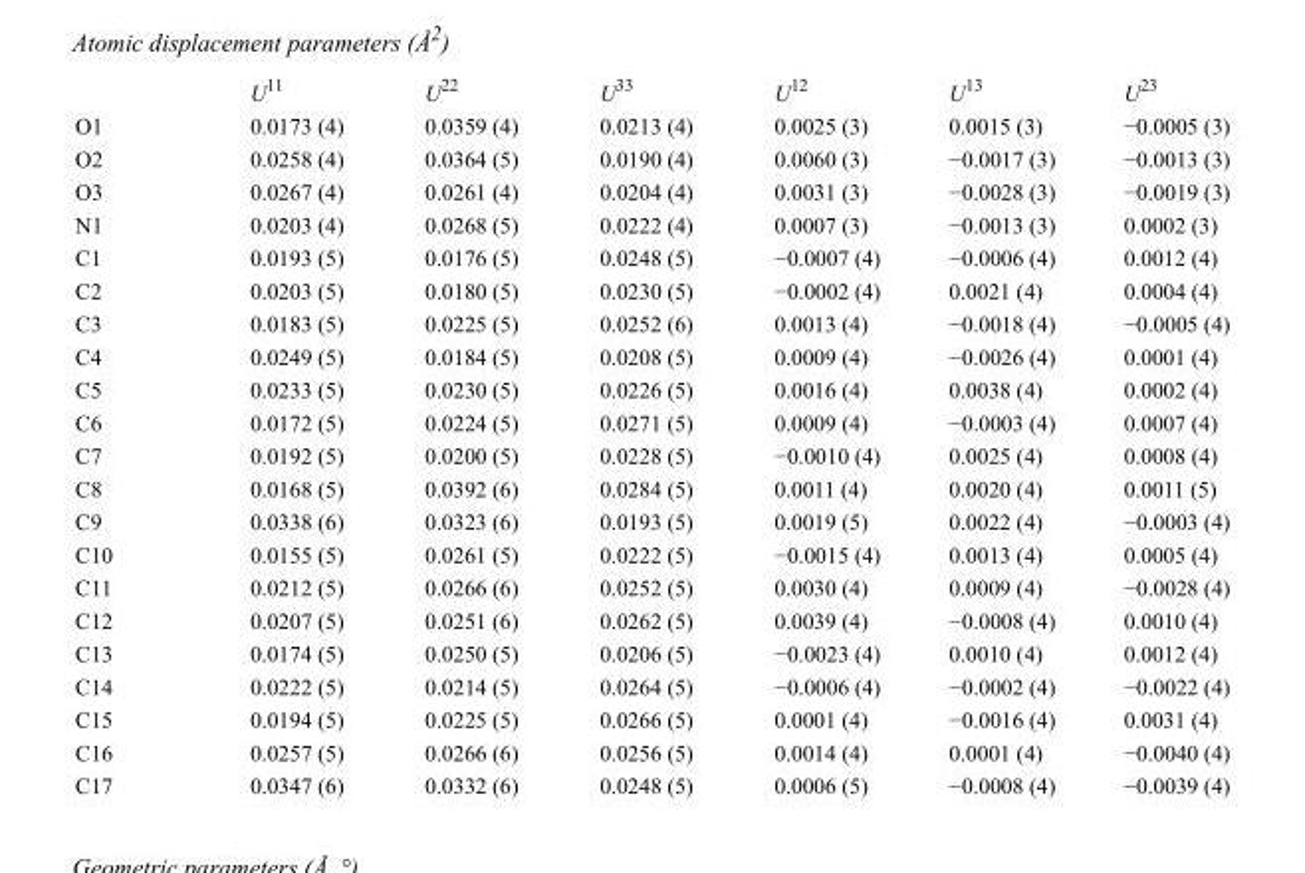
<table><thead><tr><td></td><td>U<sup>11</sup></td><td>U<sup>22</sup></td><td>U<sup>33</sup></td><td>U<sup>12</sup></td><td>U<sup>13</sup></td><td>U<sup>23</sup></td></tr></thead><tbody><tr><td>O1</td><td>0.0173 (4)</td><td>0.0359 (4)</td><td>0.0213 (4)</td><td>0.0025 (3)</td><td>0.0015 (3)</td><td>−0.0005 (3)</td></tr><tr><td>O2</td><td>0.0258 (4)</td><td>0.0364 (5)</td><td>0.0190 (4)</td><td>0.0060 (3)</td><td>−0.0017 (3)</td><td>−0.0013 (3)</td></tr><tr><td>O3</td><td>0.0267 (4)</td><td>0.0261 (4)</td><td>0.0204 (4)</td><td>0.0031 (3)</td><td>−0.0028 (3)</td><td>−0.0019 (3)</td></tr><tr><td>N1</td><td>0.0203 (4)</td><td>0.0268 (5)</td><td>0.0222 (4)</td><td>0.0007 (3)</td><td>−0.0013 (3)</td><td>0.0002 (3)</td></tr><tr><td>C1</td><td>0.0193 (5)</td><td>0.0176 (5)</td><td>0.0248 (5)</td><td>−0.0007 (4)</td><td>−0.0006 (4)</td><td>0.0012 (4)</td></tr><tr><td>C2</td><td>0.0203 (5)</td><td>0.0180 (5)</td><td>0.0230 (5)</td><td>−0.0002 (4)</td><td>0.0021 (4)</td><td>0.0004 (4)</td></tr><tr><td>C3</td><td>0.0183 (5)</td><td>0.0225 (5)</td><td>0.0252 (6)</td><td>0.0013 (4)</td><td>−0.0018 (4)</td><td>−0.0005 (4)</td></tr><tr><td>C4</td><td>0.0249 (5)</td><td>0.0184 (5)</td><td>0.0208 (5)</td><td>0.0009 (4)</td><td>−0.0026 (4)</td><td>0.0001 (4)</td></tr><tr><td>C5</td><td>0.0233 (5)</td><td>0.0230 (5)</td><td>0.0226 (5)</td><td>0.0016 (4)</td><td>0.0038 (4)</td><td>0.0002 (4)</td></tr><tr><td>C6</td><td>0.0172 (5)</td><td>0.0224 (5)</td><td>0.0271 (5)</td><td>0.0009 (4)</td><td>−0.0003 (4)</td><td>0.0007 (4)</td></tr><tr><td>C7</td><td>0.0192 (5)</td><td>0.0200 (5)</td><td>0.0228 (5)</td><td>−0.0010 (4)</td><td>0.0025 (4)</td><td>0.0008 (4)</td></tr><tr><td>C8</td><td>0.0168 (5)</td><td>0.0392 (6)</td><td>0.0284 (5)</td><td>0.0011 (4)</td><td>0.0020 (4)</td><td>0.0011 (5)</td></tr><tr><td>C9</td><td>0.0338 (6)</td><td>0.0323 (6)</td><td>0.0193 (5)</td><td>0.0019 (5)</td><td>0.0022 (4)</td><td>−0.0003 (4)</td></tr><tr><td>C10</td><td>0.0155 (5)</td><td>0.0261 (5)</td><td>0.0222 (5)</td><td>−0.0015 (4)</td><td>0.0013 (4)</td><td>0.0005 (4)</td></tr><tr><td>C11</td><td>0.0212 (5)</td><td>0.0266 (6)</td><td>0.0252 (5)</td><td>0.0030 (4)</td><td>0.0009 (4)</td><td>−0.0028 (4)</td></tr><tr><td>C12</td><td>0.0207 (5)</td><td>0.0251 (6)</td><td>0.0262 (5)</td><td>0.0039 (4)</td><td>−0.0008 (4)</td><td>0.0010 (4)</td></tr><tr><td>C13</td><td>0.0174 (5)</td><td>0.0250 (5)</td><td>0.0206 (5)</td><td>−0.0023 (4)</td><td>0.0010 (4)</td><td>0.0012 (4)</td></tr><tr><td>C14</td><td>0.0222 (5)</td><td>0.0214 (5)</td><td>0.0264 (5)</td><td>−0.0006 (4)</td><td>−0.0002 (4)</td><td>−0.0022 (4)</td></tr><tr><td>C15</td><td>0.0194 (5)</td><td>0.0225 (5)</td><td>0.0266 (5)</td><td>0.0001 (4)</td><td>−0.0016 (4)</td><td>0.0031 (4)</td></tr><tr><td>C16</td><td>0.0257 (5)</td><td>0.0266 (6)</td><td>0.0256 (5)</td><td>0.0014 (4)</td><td>0.0001 (4)</td><td>−0.0040 (4)</td></tr><tr><td>C17</td><td>0.0347 (6)</td><td>0.0332 (6)</td><td>0.0248 (5)</td><td>0.0006 (5)</td><td>−0.0008 (4)</td><td>−0.0039 (4)</td></tr></tbody></table>